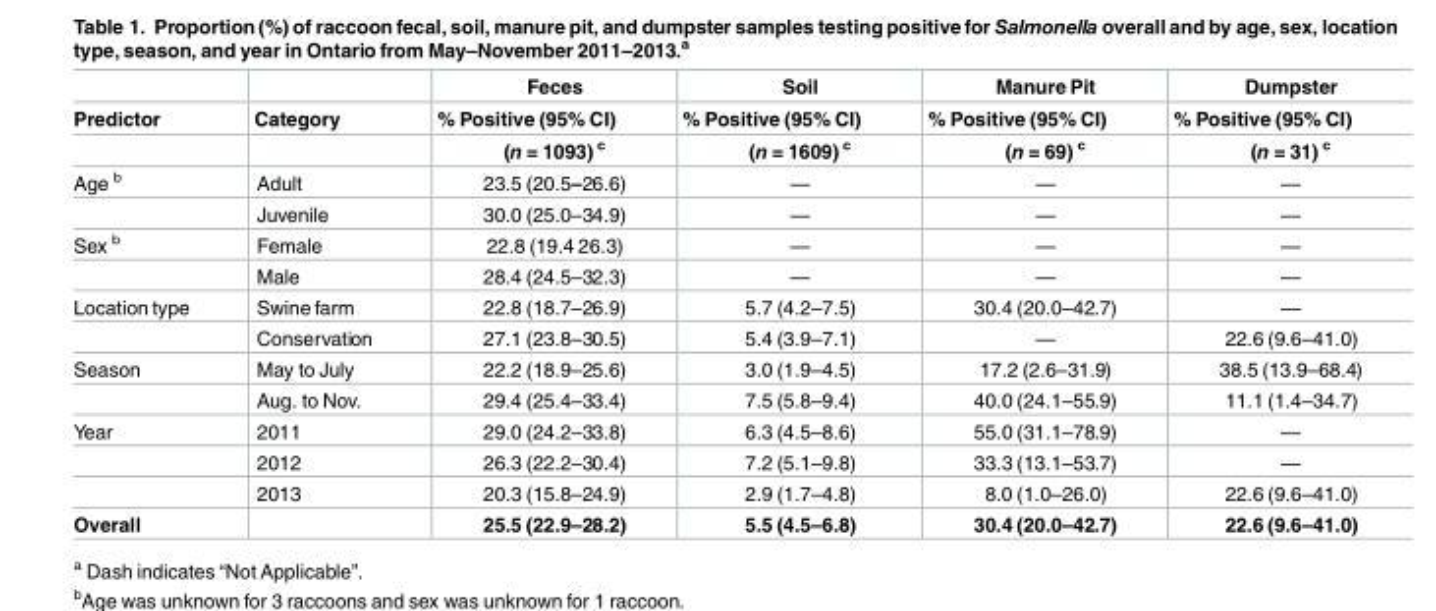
<table><thead><tr><td rowspan="3">Predictor</td><td rowspan="3">Category</td><td rowspan="3">Feces % Positive (95% CI) (n = 1093) <sup>c</sup></td><td rowspan="3">Soil % Positive (95% CI) (n = 1609) <sup>c</sup></td><td rowspan="3">Manure Pit % Positive (95% CI) (n = 69) <sup>c</sup></td><td rowspan="3">Dumpster % Positive (95% CI) (n = 31) <sup>c</sup></td></tr><tr></tr><tr></tr></thead><tbody><tr><td rowspan="2">Age <sup>b</sup></td><td>Adult</td><td>23.5 (20.5–26.6)</td><td>—</td><td>—</td><td>—</td></tr><tr><td>Juvenile</td><td>30.0 (25.0–34.9)</td><td>—</td><td>—</td><td>—</td></tr><tr><td rowspan="2">Sex <sup>b</sup></td><td>Female</td><td>22.8 (19.4 26.3)</td><td>—</td><td>—</td><td>—</td></tr><tr><td>Male</td><td>28.4 (24.5–32.3)</td><td>—</td><td>—</td><td>—</td></tr><tr><td rowspan="2">Location type</td><td>Swine farm</td><td>22.8 (18.7–26.9)</td><td>5.7 (4.2–7.5)</td><td>30.4 (20.0–42.7)</td><td>—</td></tr><tr><td>Conservation</td><td>27.1 (23.8–30.5)</td><td>5.4 (3.9–7.1)</td><td>—</td><td>22.6 (9.6–41.0)</td></tr><tr><td rowspan="2">Season</td><td>May to July</td><td>22.2 (18.9–25.6)</td><td>3.0 (1.9–4.5)</td><td>17.2 (2.6–31.9)</td><td>38.5 (13.9–68.4)</td></tr><tr><td>Aug. to Nov.</td><td>29.4 (25.4–33.4)</td><td>7.5 (5.8–9.4)</td><td>40.0 (24.1–55.9)</td><td>11.1 (1.4–34.7)</td></tr><tr><td rowspan="3">Year</td><td>2011</td><td>29.0 (24.2–33.8)</td><td>6.3 (4.5–8.6)</td><td>55.0 (31.1–78.9)</td><td>—</td></tr><tr><td>2012</td><td>26.3 (22.2–30.4)</td><td>7.2 (5.1–9.8)</td><td>33.3 (13.1–53.7)</td><td>—</td></tr><tr><td>2013</td><td>20.3 (15.8–24.9)</td><td>2.9 (1.7–4.8)</td><td>8.0 (1.0–26.0)</td><td>22.6 (9.6–41.0)</td></tr><tr><td>Overall</td><td></td><td>25.5 (22.9–28.2)</td><td>5.5 (4.5–6.8)</td><td>30.4 (20.0–42.7)</td><td>22.6 (9.6–41.0)</td></tr></tbody></table>